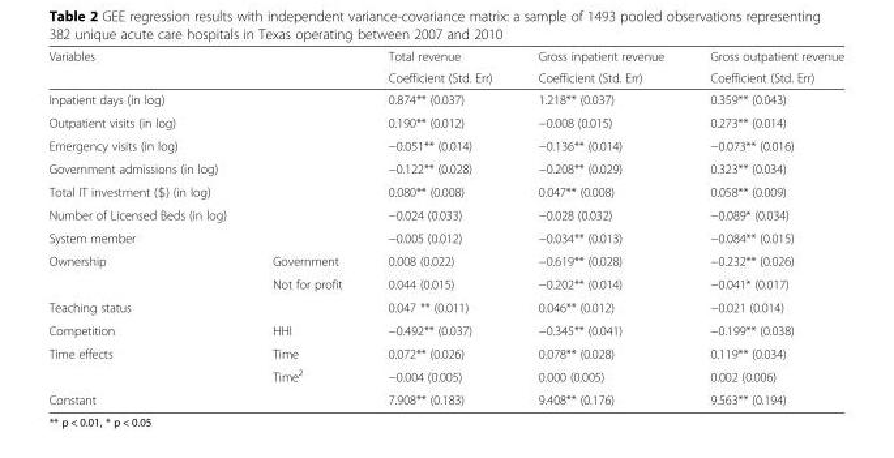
<table><thead><tr><td rowspan="2">Variables</td><td rowspan="2"></td><td rowspan="2">Total revenue Coefficient (Std. Err)</td><td rowspan="2">Gross inpatient revenue Coefficient (Std. Err)</td><td rowspan="2">Gross outpatient revenue Coefficient (Std. Err)</td></tr><tr></tr></thead><tbody><tr><td>Inpatient days (in log)</td><td></td><td>0.874** (0.037)</td><td>1.218** (0.037)</td><td>0.359** (0.043)</td></tr><tr><td>Outpatient visits (in log)</td><td></td><td>0.190** (0.012)</td><td>−0.008 (0.015)</td><td>0.273** (0.014)</td></tr><tr><td>Emergency visits (in log)</td><td></td><td>−0.051** (0.014)</td><td>−0.136** (0.014)</td><td>−0.073** (0.016)</td></tr><tr><td>Government admissions (in log)</td><td></td><td>−0.122** (0.028)</td><td>−0.208** (0.029)</td><td>0.323** (0.034)</td></tr><tr><td>Total IT investment ($) (in log)</td><td></td><td>0.080** (0.008)</td><td>0.047** (0.008)</td><td>0.058** (0.009)</td></tr><tr><td>Number of Licensed Beds (in log)</td><td></td><td>−0.024 (0.033)</td><td>−0.028 (0.032)</td><td>−0.089* (0.034)</td></tr><tr><td>System member</td><td></td><td>−0.005 (0.012)</td><td>−0.034** (0.013)</td><td>−0.084** (0.015)</td></tr><tr><td rowspan="2">Ownership</td><td>Government</td><td>0.008 (0.022)</td><td>−0.619** (0.028)</td><td>−0.232** (0.026)</td></tr><tr><td>Not for profit</td><td>0.044 (0.015)</td><td>−0.202** (0.014)</td><td>−0.041* (0.017)</td></tr><tr><td>Teaching status</td><td></td><td>0.047 ** (0.011)</td><td>0.046** (0.012)</td><td>−0.021 (0.014)</td></tr><tr><td>Competition</td><td>HHI</td><td>−0.492** (0.037)</td><td>−0.345** (0.041)</td><td>−0.199** (0.038)</td></tr><tr><td rowspan="2">Time effects</td><td>Time</td><td>0.072** (0.026)</td><td>0.078** (0.028)</td><td>0.119** (0.034)</td></tr><tr><td>Time<sup>2</sup></td><td>−0.004 (0.005)</td><td>0.000 (0.005)</td><td>0.002 (0.006)</td></tr><tr><td>Constant</td><td></td><td>7.908** (0.183)</td><td>9.408** (0.176)</td><td>9.563** (0.194)</td></tr></tbody></table>